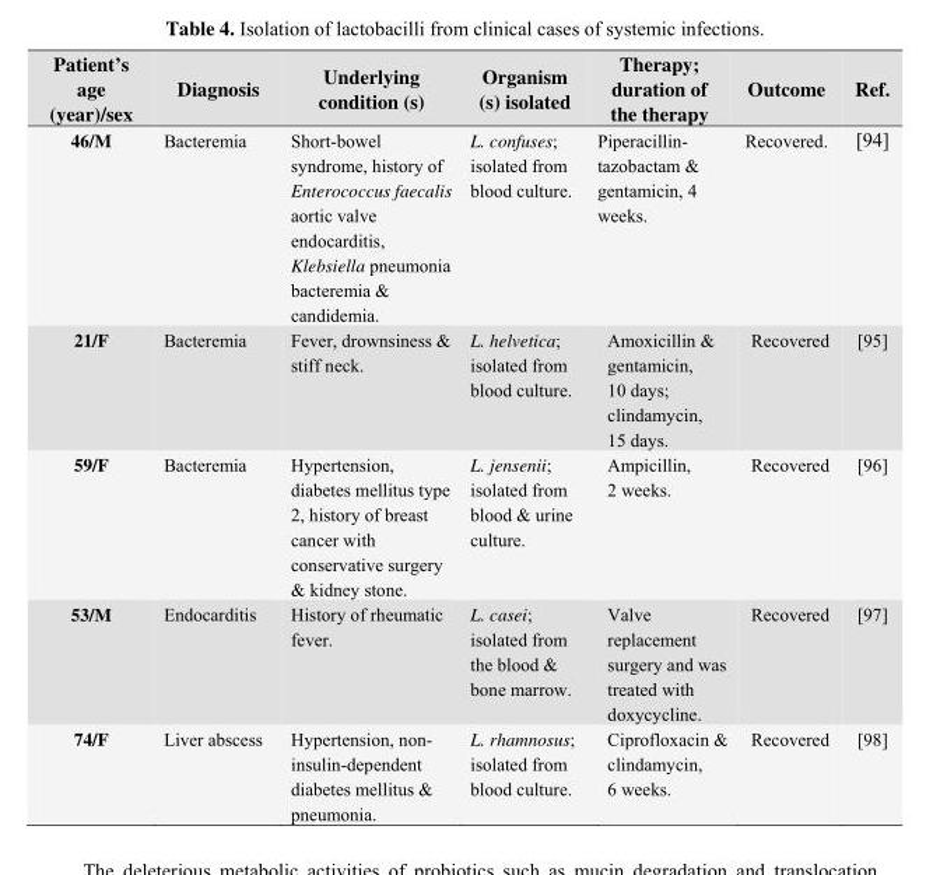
<table><thead><tr><td>Patient’s age (year)/sex</td><td>Diagnosis</td><td>Underlying condition (s)</td><td>Organism (s) isolated</td><td>Therapy; duration of the therapy</td><td>Outcome</td><td>Ref.</td></tr></thead><tbody><tr><td>46/M</td><td>Bacteremia</td><td>Short-bowel syndrome, history of Enterococcus faecalis aortic valve endocarditis, Klebsiella pneumonia bacteremia &amp; candidemia.</td><td>L. confuses; isolated from blood culture.</td><td>Piperacillin- tazobactam &amp; gentamicin, 4 weeks.</td><td>Recovered.</td><td>[94]</td></tr><tr><td>21/F</td><td>Bacteremia</td><td>Fever, drownsiness &amp; stiff neck.</td><td>L. helvetica; isolated from blood culture.</td><td>Amoxicillin &amp; gentamicin, 10 days; clindamycin, 15 days.</td><td>Recovered</td><td>[95]</td></tr><tr><td>59/F</td><td>Bacteremia</td><td>Hypertension, diabetes mellitus type 2, history of breast cancer with conservative surgery &amp; kidney stone.</td><td>L. jensenii; isolated from blood &amp; urine culture.</td><td>Ampicillin, 2 weeks.</td><td>Recovered</td><td>[96]</td></tr><tr><td>53/M</td><td>Endocarditis</td><td>History of rheumatic fever.</td><td>L. casei; isolated from the blood &amp; bone marrow.</td><td>Valve replacement surgery and was treated with doxycycline.</td><td>Recovered</td><td>[97]</td></tr><tr><td>74/F</td><td>Liver abscess</td><td>Hypertension, non- insulin-dependent diabetes mellitus &amp; pneumonia.</td><td>L. rhamnosus; isolated from blood culture.</td><td>Ciprofloxacin &amp; clindamycin, 6 weeks.</td><td>Recovered</td><td>[98]</td></tr></tbody></table>